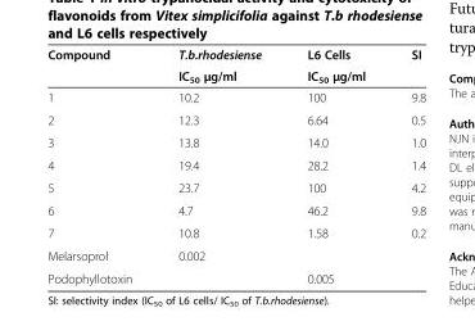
<table><thead><tr><td rowspan="2">Compound</td><td rowspan="2">T.b.rhodesiense IC<sub>50</sub> μg/ml</td><td rowspan="2">L6 Cells IC<sub>50</sub> μg/ml</td><td rowspan="2">SI</td></tr><tr></tr></thead><tbody><tr><td>1</td><td>10.2</td><td>100</td><td>9.8</td></tr><tr><td>2</td><td>12.3</td><td>6.64</td><td>0.5</td></tr><tr><td>3</td><td>13.8</td><td>14.0</td><td>1.0</td></tr><tr><td>4</td><td>19.4</td><td>28.2</td><td>1.4</td></tr><tr><td>5</td><td>23.7</td><td>100</td><td>4.2</td></tr><tr><td>6</td><td>4.7</td><td>46.2</td><td>9.8</td></tr><tr><td>7</td><td>10.8</td><td>1.58</td><td>0.2</td></tr><tr><td>Melarsoprol</td><td>0.002</td><td></td><td></td></tr><tr><td>Podophyllotoxin</td><td></td><td>0.005</td><td></td></tr></tbody></table>